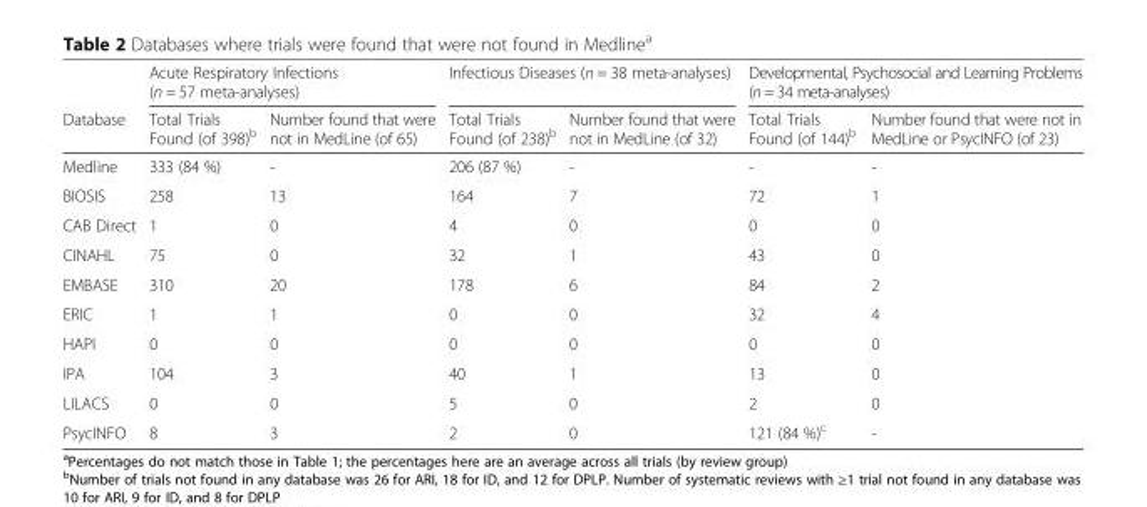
<table><thead><tr><td rowspan="2">Database</td><td colspan="2">Acute Respiratory Infections (n = 57 meta-analyses)</td><td colspan="2">Infectious Diseases (n = 38 meta-analyses)</td><td colspan="2">Developmental, Psychosocial and Learning Problems (n = 34 meta-analyses)</td></tr><tr><td>Total Trials Found (of 398)<sup>b</sup></td><td>Number found that were not in MedLine (of 65)</td><td>Total Trials Found (of 238)<sup>b</sup></td><td>Number found that were not in MedLine (of 32)</td><td>Total Trials Found (of 144)<sup>b</sup></td><td>Number found that were not in MedLine or PsycINFO (of 23)</td></tr></thead><tbody><tr><td>Medline</td><td>333 (84 %)</td><td>-</td><td>206 (87 %)</td><td>-</td><td>-</td><td>-</td></tr><tr><td>BIOSIS</td><td>258</td><td>13</td><td>164</td><td>7</td><td>72</td><td>1</td></tr><tr><td>CAB Direct</td><td>1</td><td>0</td><td>4</td><td>0</td><td>0</td><td>0</td></tr><tr><td>CINAHL</td><td>75</td><td>0</td><td>32</td><td>1</td><td>43</td><td>0</td></tr><tr><td>EMBASE</td><td>310</td><td>20</td><td>178</td><td>6</td><td>84</td><td>2</td></tr><tr><td>ERIC</td><td>1</td><td>1</td><td>0</td><td>0</td><td>32</td><td>4</td></tr><tr><td>HAPI</td><td>0</td><td>0</td><td>0</td><td>0</td><td>0</td><td>0</td></tr><tr><td>IPA</td><td>104</td><td>3</td><td>40</td><td>1</td><td>13</td><td>0</td></tr><tr><td>LILACS</td><td>0</td><td>0</td><td>5</td><td>0</td><td>2</td><td>0</td></tr><tr><td>PsycINFO</td><td>8</td><td>3</td><td>2</td><td>0</td><td>121 (84 %)<sup>c</sup></td><td>-</td></tr></tbody></table>